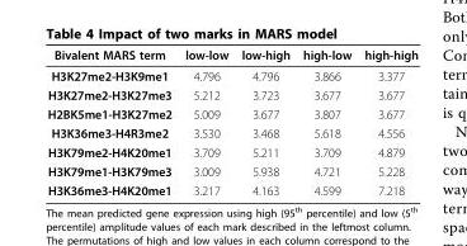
<table><thead><tr><td>Bivalent MARS term</td><td>low-low</td><td>low-high</td><td>high-low</td><td>high-high</td></tr></thead><tbody><tr><td>H3K27me2-H3K9me1</td><td>4.796</td><td>4.796</td><td>3.866</td><td>3.377</td></tr><tr><td>H3K27me2-H3K27me3</td><td>5.212</td><td>3.723</td><td>3.677</td><td>3.677</td></tr><tr><td>H2BK5me1-H3K27me2</td><td>5.009</td><td>3.677</td><td>3.807</td><td>3.677</td></tr><tr><td>H3K36me3-H4R3me2</td><td>3.530</td><td>3.468</td><td>5.618</td><td>4.556</td></tr><tr><td>H3K79me2-H4K20me1</td><td>3.709</td><td>5.211</td><td>3.709</td><td>4.879</td></tr><tr><td>H3K79me1-H3K79me3</td><td>3.009</td><td>5.938</td><td>4.721</td><td>5.228</td></tr><tr><td>H3K36me3-H4K20me1</td><td>3.217</td><td>4.163</td><td>4.599</td><td>7.218</td></tr></tbody></table>